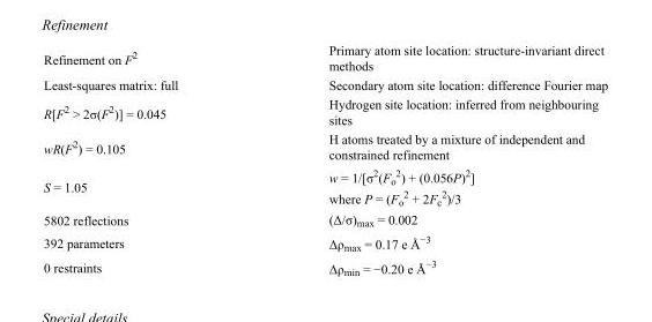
<table><tbody><tr><td>Refinement on F<sup>2</sup></td><td>Primary atom site location: structure-invariant direct methods</td></tr><tr><td>Least-squares matrix: full</td><td>Secondary atom site location: difference Fourier map</td></tr><tr><td>R[F<sup>2</sup> &gt; 2σ(F<sup>2</sup>)] = 0.045</td><td>Hydrogen site location: inferred from neighbouring sites</td></tr><tr><td>wR(F<sup>2</sup>) = 0.105</td><td>H atoms treated by a mixture of independent and constrained refinement</td></tr><tr><td>S = 1.05</td><td>w = 1/[σ<sup>2</sup>(F<sub>o</sub> <sup>2</sup>) + (0.056P)<sup>2</sup>] where P = (F<sub>o</sub> <sup>2</sup> + 2F<sub>c</sub> <sup>2</sup>)/3</td></tr><tr><td>5802 reflections</td><td>(Δ/σ)<sub>max</sub> = 0.002</td></tr><tr><td>392 parameters</td><td>Δρ<sub>max</sub> = 0.17 e Å<sup>−3</sup></td></tr><tr><td>0 restraints</td><td>Δρ<sub>min</sub> = −0.20 e Å<sup>−3</sup></td></tr></tbody></table>